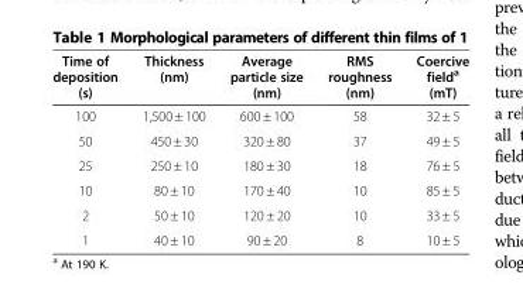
<table><thead><tr><td>Time of deposition (s)</td><td>Thickness (nm)</td><td>Average particle size (nm)</td><td>RMS roughness (nm)</td><td>Coercive field<sup>a</sup> (mT)</td></tr></thead><tbody><tr><td>100</td><td>1,500 ± 100</td><td>600 ± 100</td><td>58</td><td>32 ± 5</td></tr><tr><td>50</td><td>450 ± 30</td><td>320 ± 80</td><td>37</td><td>49 ± 5</td></tr><tr><td>25</td><td>250 ± 10</td><td>180 ± 30</td><td>18</td><td>76 ± 5</td></tr><tr><td>10</td><td>80 ± 10</td><td>170 ± 40</td><td>10</td><td>85 ± 5</td></tr><tr><td>2</td><td>50 ± 10</td><td>120 ± 20</td><td>10</td><td>33 ± 5</td></tr><tr><td>1</td><td>40 ± 10</td><td>90 ± 20</td><td>8</td><td>10 ± 5</td></tr></tbody></table>